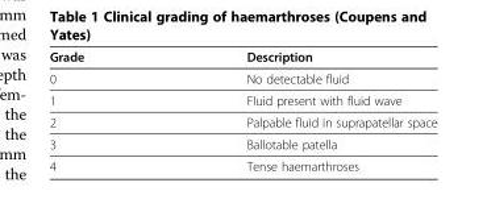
<table><thead><tr><td>Grade</td><td>Description</td></tr></thead><tbody><tr><td>0</td><td>No detectable fluid</td></tr><tr><td>1</td><td>Fluid present with fluid wave</td></tr><tr><td>2</td><td>Palpable fluid in suprapatellar space</td></tr><tr><td>3</td><td>Ballotable patella</td></tr><tr><td>4</td><td>Tense haemarthroses</td></tr></tbody></table>